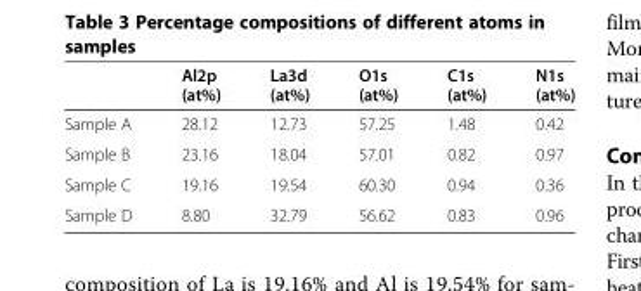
<table><thead><tr><td></td><td>Al2p (at%)</td><td>La3d (at%)</td><td>O1s (at%)</td><td>C1s (at%)</td><td>N1s (at%)</td></tr></thead><tbody><tr><td>Sample A</td><td>28.12</td><td>12.73</td><td>57.25</td><td>1.48</td><td>0.42</td></tr><tr><td>Sample B</td><td>23.16</td><td>18.04</td><td>57.01</td><td>0.82</td><td>0.97</td></tr><tr><td>Sample C</td><td>19.16</td><td>19.54</td><td>60.30</td><td>0.94</td><td>0.36</td></tr><tr><td>Sample D</td><td>8.80</td><td>32.79</td><td>56.62</td><td>0.83</td><td>0.96</td></tr></tbody></table>